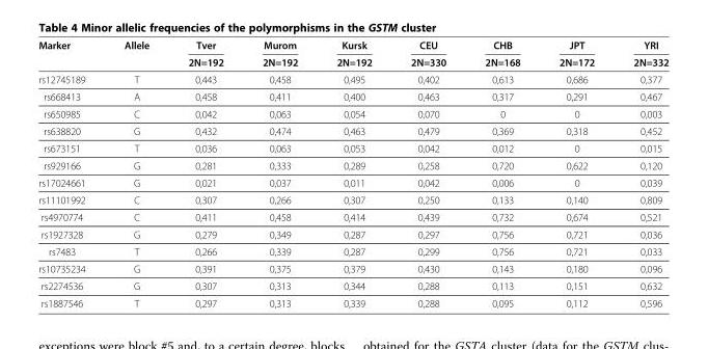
<table><thead><tr><td rowspan="2">Marker</td><td rowspan="2">Allele</td><td rowspan="2">Tver 2N=192</td><td rowspan="2">Murom 2N=192</td><td rowspan="2">Kursk 2N=192</td><td rowspan="2">CEU 2N=330</td><td rowspan="2">CHB 2N=168</td><td rowspan="2">JPT 2N=172</td><td rowspan="2">YRI 2N=332</td></tr><tr></tr></thead><tbody><tr><td>rs12745189</td><td>T</td><td>0,443</td><td>0,458</td><td>0,495</td><td>0,402</td><td>0,613</td><td>0,686</td><td>0,377</td></tr><tr><td>rs668413</td><td>A</td><td>0,458</td><td>0,411</td><td>0,400</td><td>0,463</td><td>0,317</td><td>0,291</td><td>0,467</td></tr><tr><td>rs650985</td><td>C</td><td>0,042</td><td>0,063</td><td>0,054</td><td>0,070</td><td>0</td><td>0</td><td>0,003</td></tr><tr><td>rs638820</td><td>G</td><td>0,432</td><td>0,474</td><td>0,463</td><td>0,479</td><td>0,369</td><td>0,318</td><td>0,452</td></tr><tr><td>rs673151</td><td>T</td><td>0,036</td><td>0,063</td><td>0,053</td><td>0,042</td><td>0,012</td><td>0</td><td>0,015</td></tr><tr><td>rs929166</td><td>G</td><td>0,281</td><td>0,333</td><td>0,289</td><td>0,258</td><td>0,720</td><td>0,622</td><td>0,120</td></tr><tr><td>rs17024661</td><td>G</td><td>0,021</td><td>0,037</td><td>0,011</td><td>0,042</td><td>0,006</td><td>0</td><td>0,039</td></tr><tr><td>rs11101992</td><td>C</td><td>0,307</td><td>0,266</td><td>0,307</td><td>0,250</td><td>0,133</td><td>0,140</td><td>0,809</td></tr><tr><td>rs4970774</td><td>C</td><td>0,411</td><td>0,458</td><td>0,414</td><td>0,439</td><td>0,732</td><td>0,674</td><td>0,521</td></tr><tr><td>rs1927328</td><td>G</td><td>0,279</td><td>0,349</td><td>0,287</td><td>0,297</td><td>0,756</td><td>0,721</td><td>0,036</td></tr><tr><td>rs7483</td><td>T</td><td>0,266</td><td>0,339</td><td>0,287</td><td>0,299</td><td>0,756</td><td>0,721</td><td>0,033</td></tr><tr><td>rs10735234</td><td>G</td><td>0,391</td><td>0,375</td><td>0,379</td><td>0,430</td><td>0,143</td><td>0,180</td><td>0,096</td></tr><tr><td>rs2274536</td><td>G</td><td>0,307</td><td>0,313</td><td>0,344</td><td>0,288</td><td>0,113</td><td>0,151</td><td>0,632</td></tr><tr><td>rs1887546</td><td>T</td><td>0,297</td><td>0,313</td><td>0,339</td><td>0,288</td><td>0,095</td><td>0,112</td><td>0,596</td></tr></tbody></table>